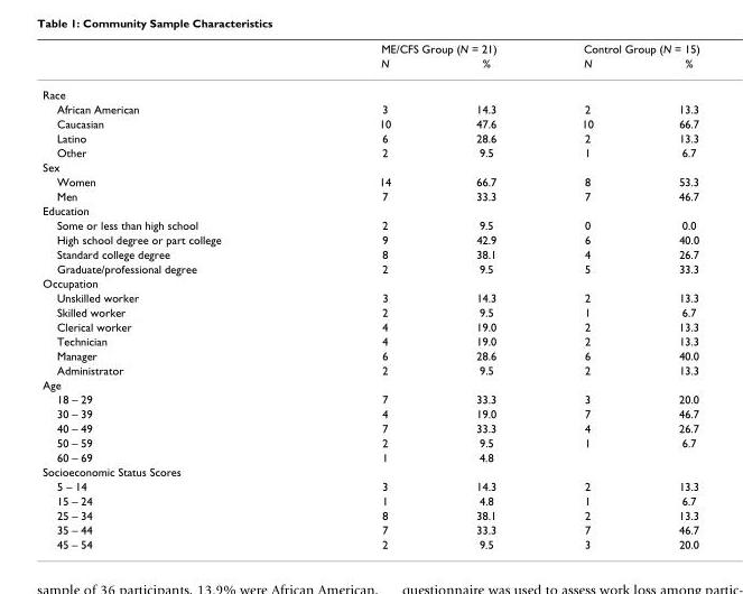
<table><thead><tr><td rowspan="2"></td><td colspan="2">ME/CFS Group (N = 21)</td><td colspan="2">Control Group (N = 15)</td></tr><tr><td>N</td><td>%</td><td>N</td><td>%</td></tr></thead><tbody><tr><td colspan="5">Race</td></tr><tr><td>African American</td><td>3</td><td>14.3</td><td>2</td><td>13.3</td></tr><tr><td>Caucasian</td><td>10</td><td>47.6</td><td>10</td><td>66.7</td></tr><tr><td>Latino</td><td>6</td><td>28.6</td><td>2</td><td>13.3</td></tr><tr><td>Other</td><td>2</td><td>9.5</td><td>1</td><td>6.7</td></tr><tr><td colspan="5">Sex</td></tr><tr><td>Women</td><td>14</td><td>66.7</td><td>8</td><td>53.3</td></tr><tr><td>Men</td><td>7</td><td>33.3</td><td>7</td><td>46.7</td></tr><tr><td colspan="5">Education</td></tr><tr><td>Some or less than high school</td><td>2</td><td>9.5</td><td>0</td><td>0.0</td></tr><tr><td>High school degree or part college</td><td>9</td><td>42.9</td><td>6</td><td>40.0</td></tr><tr><td>Standard college degree</td><td>8</td><td>38.1</td><td>4</td><td>26.7</td></tr><tr><td>Graduate/professional degree</td><td>2</td><td>9.5</td><td>5</td><td>33.3</td></tr><tr><td colspan="5">Occupation</td></tr><tr><td>Unskilled worker</td><td>3</td><td>14.3</td><td>2</td><td>13.3</td></tr><tr><td>Skilled worker</td><td>2</td><td>9.5</td><td>1</td><td>6.7</td></tr><tr><td>Clerical worker</td><td>4</td><td>19.0</td><td>2</td><td>13.3</td></tr><tr><td>Technician</td><td>4</td><td>19.0</td><td>2</td><td>13.3</td></tr><tr><td>Manager</td><td>6</td><td>28.6</td><td>6</td><td>40.0</td></tr><tr><td>Administrator</td><td>2</td><td>9.5</td><td>2</td><td>13.3</td></tr><tr><td colspan="5">Age</td></tr><tr><td>18 – 29</td><td>7</td><td>33.3</td><td>3</td><td>20.0</td></tr><tr><td>30 – 39</td><td>4</td><td>19.0</td><td>7</td><td>46.7</td></tr><tr><td>40 – 49</td><td>7</td><td>33.3</td><td>4</td><td>26.7</td></tr><tr><td>50 – 59</td><td>2</td><td>9.5</td><td>1</td><td>6.7</td></tr><tr><td>60 – 69</td><td>1</td><td>4.8</td><td></td><td></td></tr><tr><td colspan="5">Socioeconomic Status Scores</td></tr><tr><td>5 – 14</td><td>3</td><td>14.3</td><td>2</td><td>13.3</td></tr><tr><td>15 – 24</td><td>1</td><td>4.8</td><td>1</td><td>6.7</td></tr><tr><td>25 – 34</td><td>8</td><td>38.1</td><td>2</td><td>13.3</td></tr><tr><td>35 – 44</td><td>7</td><td>33.3</td><td>7</td><td>46.7</td></tr><tr><td>45 – 54</td><td>2</td><td>9.5</td><td>3</td><td>20.0</td></tr></tbody></table>